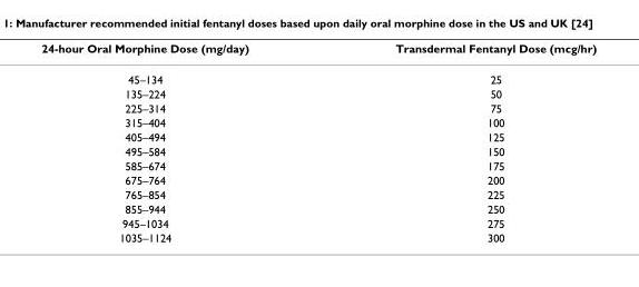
<table><thead><tr><td>24-hour Oral Morphine Dose (mg/day)</td><td>Transdermal Fentanyl Dose (mcg/hr)</td></tr></thead><tbody><tr><td>45–134</td><td>25</td></tr><tr><td>135–224</td><td>50</td></tr><tr><td>225–314</td><td>75</td></tr><tr><td>315–404</td><td>100</td></tr><tr><td>405–494</td><td>125</td></tr><tr><td>495–584</td><td>150</td></tr><tr><td>585–674</td><td>175</td></tr><tr><td>675–764</td><td>200</td></tr><tr><td>765–854</td><td>225</td></tr><tr><td>855–944</td><td>250</td></tr><tr><td>945–1034</td><td>275</td></tr><tr><td>1035–1124</td><td>300</td></tr></tbody></table>